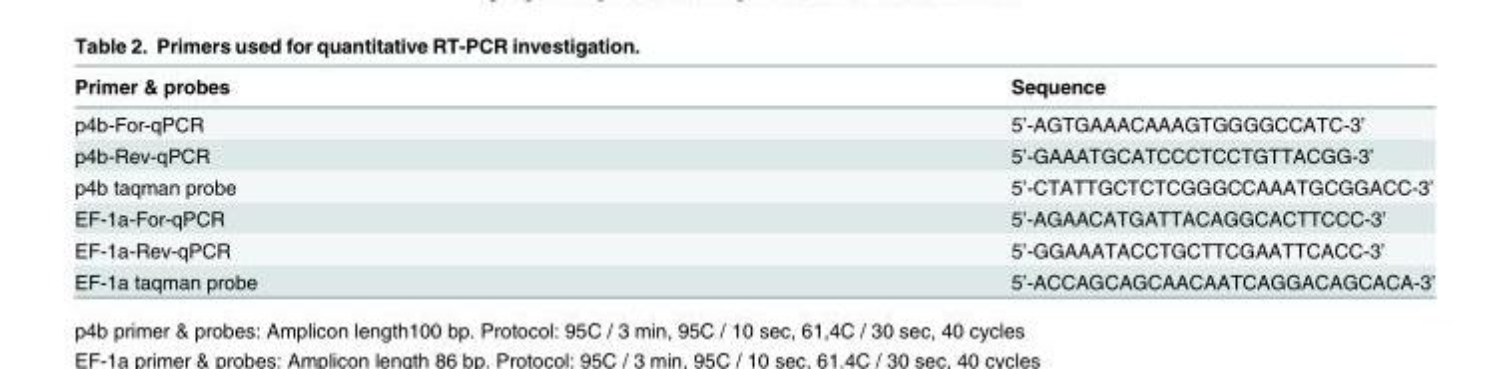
<table><thead><tr><td>Primer &amp; probes</td><td>Sequence</td></tr></thead><tbody><tr><td>p4b-For-qPCR</td><td>5’-AGTGAAACAAAGTGGGGCCATC-3’</td></tr><tr><td>p4b-Rev-qPCR</td><td>5’-GAAATGCATCCCTCCTGTTACGG-3’</td></tr><tr><td>p4b taqman probe</td><td>5’-CTATTGCTCTCGGGCCAAATGCGGACC-3’</td></tr><tr><td>EF-1a-For-qPCR</td><td>5’-AGAACATGATTACAGGCACTTCCC-3’</td></tr><tr><td>EF-1a-Rev-qPCR</td><td>5’-GGAAATACCTGCTTCGAATTCACC-3’</td></tr><tr><td>EF-1a taqman probe</td><td>5’-ACCAGCAGCAACAATCAGGACAGCACA-3’</td></tr></tbody></table>